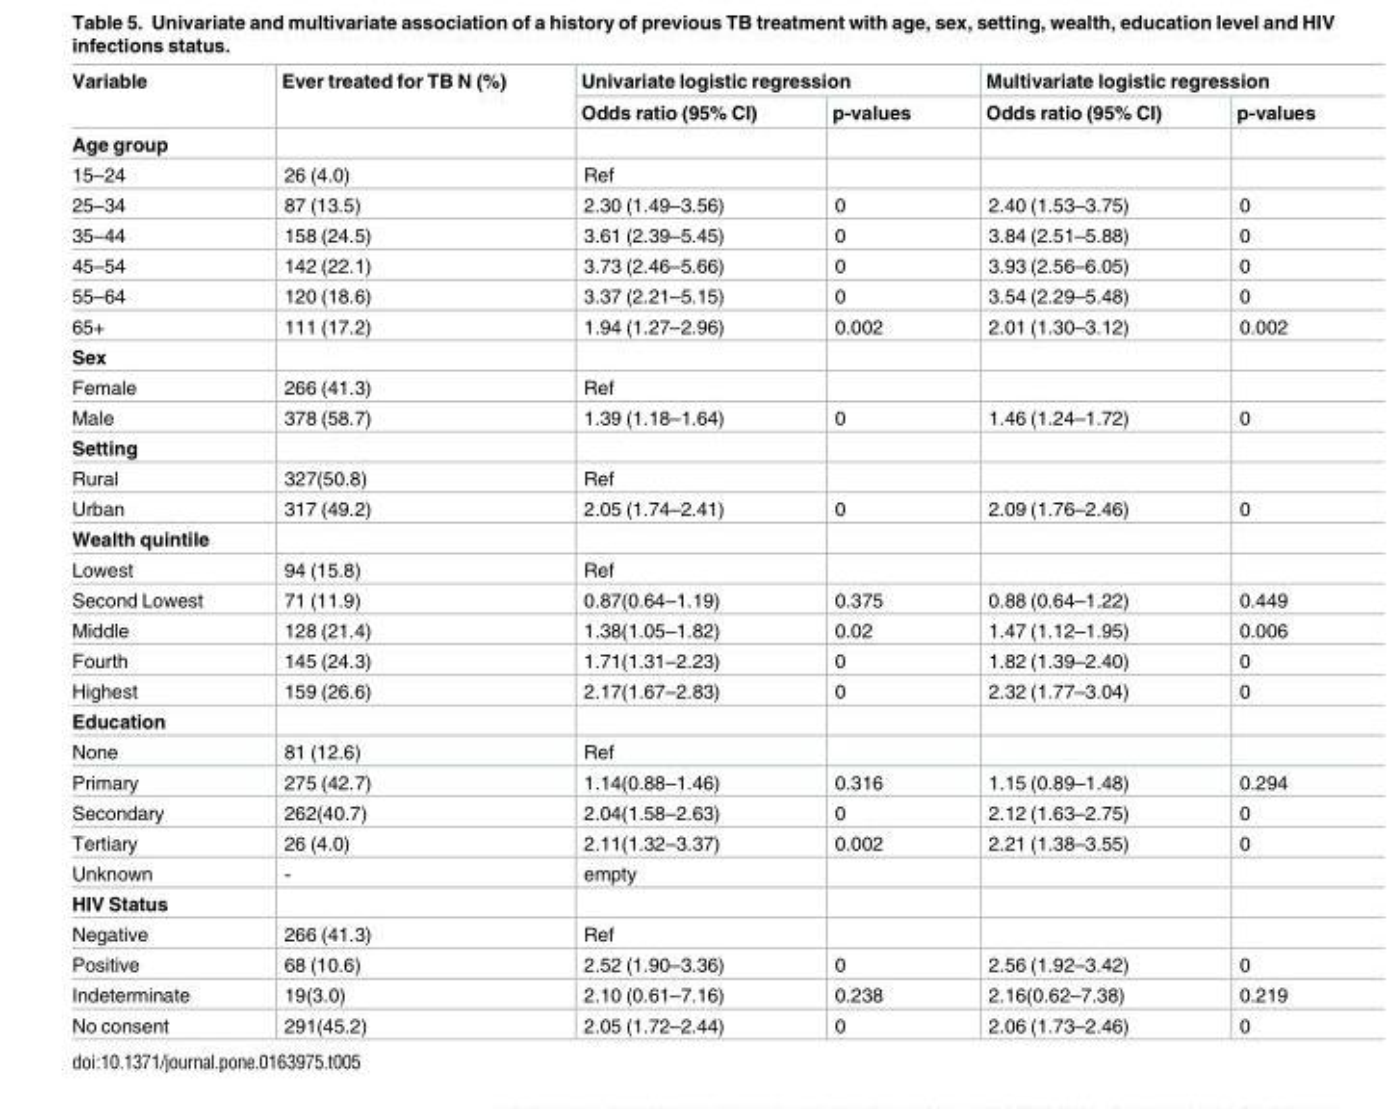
<table><thead><tr><td rowspan="2">Variable</td><td rowspan="2">Ever treated for TB N (%)</td><td colspan="2">Univariate logistic regression</td><td colspan="2">Multivariate logistic regression</td></tr><tr><td>Odds ratio (95% CI)</td><td>p-values</td><td>Odds ratio (95% CI)</td><td>p-values</td></tr></thead><tbody><tr><td colspan="6">Age group</td></tr><tr><td>15–24</td><td>26 (4.0)</td><td>Ref</td><td></td><td></td><td></td></tr><tr><td>25–34</td><td>87 (13.5)</td><td>2.30 (1.49–3.56)</td><td>0</td><td>2.40 (1.53–3.75)</td><td>0</td></tr><tr><td>35–44</td><td>158 (24.5)</td><td>3.61 (2.39–5.45)</td><td>0</td><td>3.84 (2.51–5.88)</td><td>0</td></tr><tr><td>45–54</td><td>142 (22.1)</td><td>3.73 (2.46–5.66)</td><td>0</td><td>3.93 (2.56–6.05)</td><td>0</td></tr><tr><td>55–64</td><td>120 (18.6)</td><td>3.37 (2.21–5.15)</td><td>0</td><td>3.54 (2.29–5.48)</td><td>0</td></tr><tr><td>65+</td><td>111 (17.2)</td><td>1.94 (1.27–2.96)</td><td>0.002</td><td>2.01 (1.30–3.12)</td><td>0.002</td></tr><tr><td colspan="6">Sex</td></tr><tr><td>Female</td><td>266 (41.3)</td><td>Ref</td><td></td><td></td><td></td></tr><tr><td>Male</td><td>378 (58.7)</td><td>1.39 (1.18–1.64)</td><td>0</td><td>1.46 (1.24–1.72)</td><td>0</td></tr><tr><td colspan="6">Setting</td></tr><tr><td>Rural</td><td>327(50.8)</td><td>Ref</td><td></td><td></td><td></td></tr><tr><td>Urban</td><td>317 (49.2)</td><td>2.05 (1.74–2.41)</td><td>0</td><td>2.09 (1.76–2.46)</td><td>0</td></tr><tr><td colspan="6">Wealth quintile</td></tr><tr><td>Lowest</td><td>94 (15.8)</td><td>Ref</td><td></td><td></td><td></td></tr><tr><td>Second Lowest</td><td>71 (11.9)</td><td>0.87(0.64–1.19)</td><td>0.375</td><td>0.88 (0.64–1.22)</td><td>0.449</td></tr><tr><td>Middle</td><td>128 (21.4)</td><td>1.38(1.05–1.82)</td><td>0.02</td><td>1.47 (1.12–1.95)</td><td>0.006</td></tr><tr><td>Fourth</td><td>145 (24.3)</td><td>1.71(1.31–2.23)</td><td>0</td><td>1.82 (1.39–2.40)</td><td>0</td></tr><tr><td>Highest</td><td>159 (26.6)</td><td>2.17(1.67–2.83)</td><td>0</td><td>2.32 (1.77–3.04)</td><td>0</td></tr><tr><td colspan="6">Education</td></tr><tr><td>None</td><td>81 (12.6)</td><td>Ref</td><td></td><td></td><td></td></tr><tr><td>Primary</td><td>275 (42.7)</td><td>1.14(0.88–1.46)</td><td>0.316</td><td>1.15 (0.89–1.48)</td><td>0.294</td></tr><tr><td>Secondary</td><td>262(40.7)</td><td>2.04(1.58–2.63)</td><td>0</td><td>2.12 (1.63–2.75)</td><td>0</td></tr><tr><td>Tertiary</td><td>26 (4.0)</td><td>2.11(1.32–3.37)</td><td>0.002</td><td>2.21 (1.38–3.55)</td><td>0</td></tr><tr><td>Unknown</td><td>-</td><td>empty</td><td></td><td></td><td></td></tr><tr><td colspan="6">HIV Status</td></tr><tr><td>Negative</td><td>266 (41.3)</td><td>Ref</td><td></td><td></td><td></td></tr><tr><td>Positive</td><td>68 (10.6)</td><td>2.52 (1.90–3.36)</td><td>0</td><td>2.56 (1.92–3.42)</td><td>0</td></tr><tr><td>Indeterminate</td><td>19(3.0)</td><td>2.10 (0.61–7.16)</td><td>0.238</td><td>2.16(0.62–7.38)</td><td>0.219</td></tr><tr><td>No consent</td><td>291(45.2)</td><td>2.05 (1.72–2.44)</td><td>0</td><td>2.06 (1.73–2.46)</td><td>0</td></tr></tbody></table>